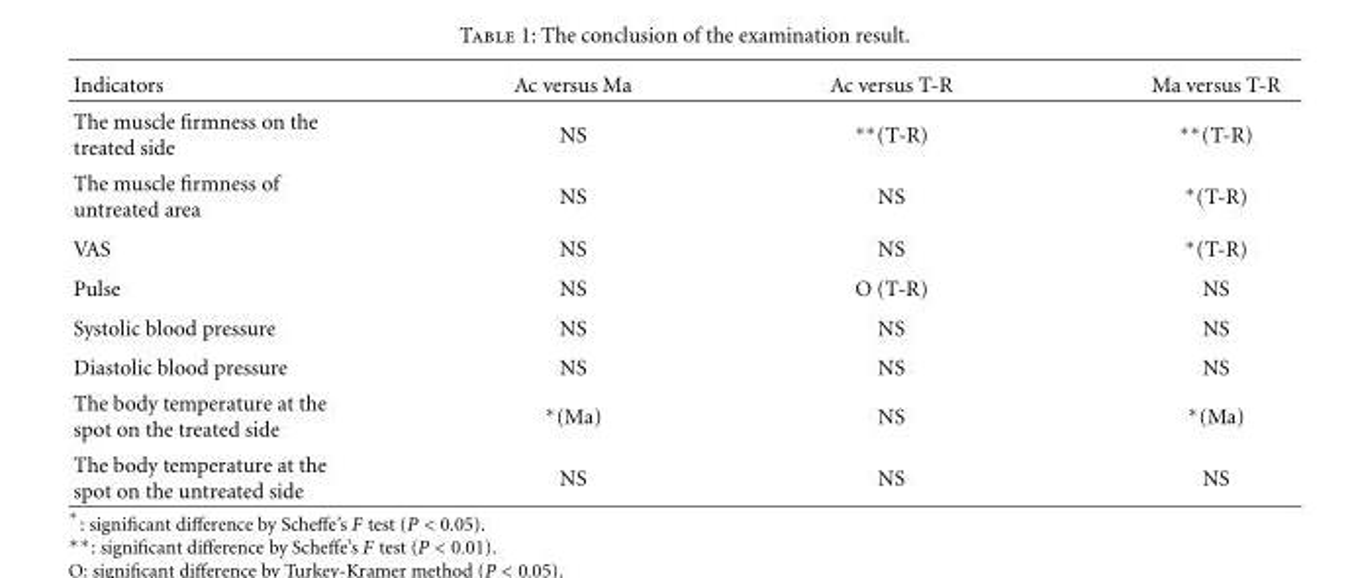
<table><thead><tr><td>Indicators</td><td>Ac versus Ma</td><td>Ac versus T-R</td><td>Ma versus T-R</td></tr></thead><tbody><tr><td>The muscle firmness on the treated side</td><td>NS</td><td>∗∗(T-R)</td><td>∗∗(T-R)</td></tr><tr><td>The muscle firmness of untreated area</td><td>NS</td><td>NS</td><td>∗(T-R)</td></tr><tr><td>VAS</td><td>NS</td><td>NS</td><td>∗(T-R)</td></tr><tr><td>Pulse</td><td>NS</td><td>O (T-R)</td><td>NS</td></tr><tr><td>Systolic blood pressure</td><td>NS</td><td>NS</td><td>NS</td></tr><tr><td>Diastolic blood pressure</td><td>NS</td><td>NS</td><td>NS</td></tr><tr><td>The body temperature at the spot on the treated side</td><td>∗(Ma)</td><td>NS</td><td>∗(Ma)</td></tr><tr><td>The body temperature at the spot on the untreated side</td><td>NS</td><td>NS</td><td>NS</td></tr></tbody></table>